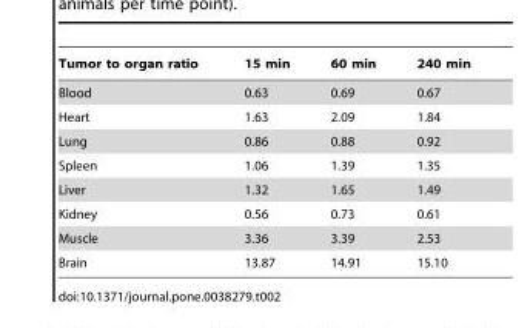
<table><thead><tr><td>Tumor to organ ratio</td><td>15 min</td><td>60 min</td><td>240 min</td></tr></thead><tbody><tr><td>Blood</td><td>0.63</td><td>0.69</td><td>0.67</td></tr><tr><td>Heart</td><td>1.63</td><td>2.09</td><td>1.84</td></tr><tr><td>Lung</td><td>0.86</td><td>0.88</td><td>0.92</td></tr><tr><td>Spleen</td><td>1.06</td><td>1.39</td><td>1.35</td></tr><tr><td>Liver</td><td>1.32</td><td>1.65</td><td>1.49</td></tr><tr><td>Kidney</td><td>0.56</td><td>0.73</td><td>0.61</td></tr><tr><td>Muscle</td><td>3.36</td><td>3.39</td><td>2.53</td></tr><tr><td>Brain</td><td>13.87</td><td>14.91</td><td>15.10</td></tr></tbody></table>